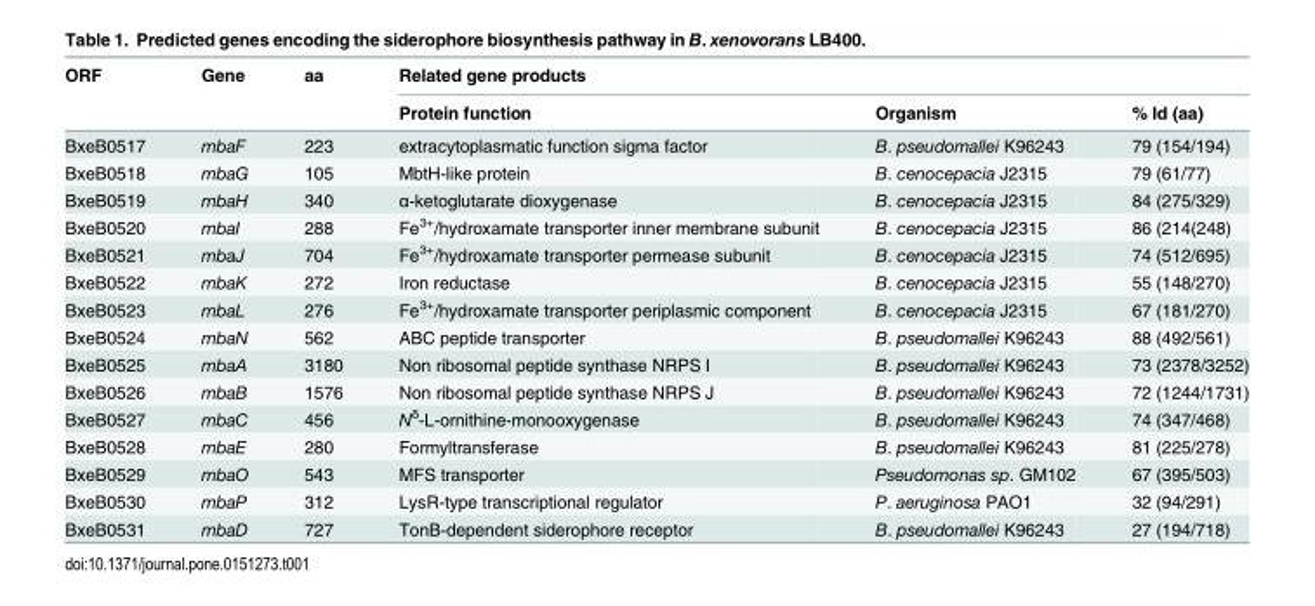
<table><thead><tr><td rowspan="2">ORF</td><td rowspan="2">Gene</td><td rowspan="2">aa</td><td colspan="3">Related gene products</td></tr><tr><td>Protein function</td><td>Organism</td><td>% Id (aa)</td></tr></thead><tbody><tr><td>BxeB0517</td><td>mbaF</td><td>223</td><td>extracytoplasmatic function sigma factor</td><td>B. pseudomallei K96243</td><td>79 (154/194)</td></tr><tr><td>BxeB0518</td><td>mbaG</td><td>105</td><td>MbtH-like protein</td><td>B. cenocepacia J2315</td><td>79 (61/77)</td></tr><tr><td>BxeB0519</td><td>mbaH</td><td>340</td><td>α-ketoglutarate dioxygenase</td><td>B. cenocepacia J2315</td><td>84 (275/329)</td></tr><tr><td>BxeB0520</td><td>mbaI</td><td>288</td><td>Fe<sup>3+</sup>/hydroxamate transporter inner membrane subunit</td><td>B. cenocepacia J2315</td><td>86 (214(248)</td></tr><tr><td>BxeB0521</td><td>mbaJ</td><td>704</td><td>Fe<sup>3+</sup>/hydroxamate transporter permease subunit</td><td>B. cenocepacia J2315</td><td>74 (512/695)</td></tr><tr><td>BxeB0522</td><td>mbaK</td><td>272</td><td>Iron reductase</td><td>B. cenocepacia J2315</td><td>55 (148/270)</td></tr><tr><td>BxeB0523</td><td>mbaL</td><td>276</td><td>Fe<sup>3+</sup>/hydroxamate transporter periplasmic component</td><td>B. cenocepacia J2315</td><td>67 (181/270)</td></tr><tr><td>BxeB0524</td><td>mbaN</td><td>562</td><td>ABC peptide transporter</td><td>B. pseudomallei K96243</td><td>88 (492/561)</td></tr><tr><td>BxeB0525</td><td>mbaA</td><td>3180</td><td>Non ribosomal peptide synthase NRPS I</td><td>B. pseudomallei K96243</td><td>73 (2378/3252)</td></tr><tr><td>BxeB0526</td><td>mbaB</td><td>1576</td><td>Non ribosomal peptide synthase NRPS J</td><td>B. pseudomallei K96243</td><td>72 (1244/1731)</td></tr><tr><td>BxeB0527</td><td>mbaC</td><td>456</td><td>N<sup>δ</sup>-L-ornithine-monooxygenase</td><td>B. pseudomallei K96243</td><td>74 (347/468)</td></tr><tr><td>BxeB0528</td><td>mbaE</td><td>280</td><td>Formyltransferase</td><td>B. pseudomallei K96243</td><td>81 (225/278)</td></tr><tr><td>BxeB0529</td><td>mbaO</td><td>543</td><td>MFS transporter</td><td>Pseudomonas sp. GM102</td><td>67 (395/503)</td></tr><tr><td>BxeB0530</td><td>mbaP</td><td>312</td><td>LysR-type transcriptional regulator</td><td>P. aeruginosa PAO1</td><td>32 (94/291)</td></tr><tr><td>BxeB0531</td><td>mbaD</td><td>727</td><td>TonB-dependent siderophore receptor</td><td>B. pseudomallei K96243</td><td>27 (194/718)</td></tr></tbody></table>